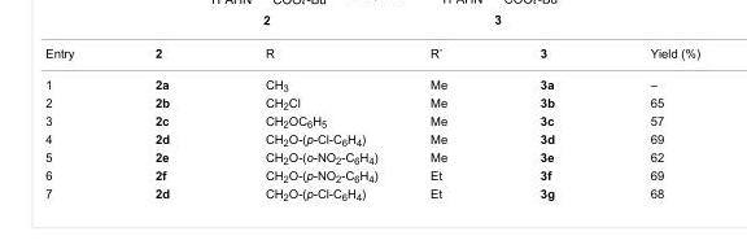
<table><tbody><tr><td>Entry</td><td>2</td><td>R</td><td>R’</td><td>3</td><td>Yield (%)</td></tr><tr><td>1</td><td>2a</td><td>CH<sub>3</sub></td><td>Me</td><td>3a</td><td>–</td></tr><tr><td>2</td><td>2b</td><td>CH<sub>2</sub>Cl</td><td>Me</td><td>3b</td><td>65</td></tr><tr><td>3</td><td>2c</td><td>CH<sub>2</sub>OC<sub>6</sub>H<sub>5</sub></td><td>Me</td><td>3c</td><td>57</td></tr><tr><td>4</td><td>2d</td><td>CH<sub>2</sub>O-(p-Cl-C<sub>6</sub>H<sub>4</sub>)</td><td>Me</td><td>3d</td><td>69</td></tr><tr><td>5</td><td>2e</td><td>CH<sub>2</sub>O-(o-NO<sub>2</sub>-C<sub>6</sub>H<sub>4</sub>)</td><td>Me</td><td>3e</td><td>62</td></tr><tr><td>6</td><td>2f</td><td>CH<sub>2</sub>O-(p-NO<sub>2</sub>-C<sub>6</sub>H<sub>4</sub>)</td><td>Et</td><td>3f</td><td>69</td></tr><tr><td>7</td><td>2d</td><td>CH<sub>2</sub>O-(p-Cl-C<sub>6</sub>H<sub>4</sub>)</td><td>Et</td><td>3g</td><td>68</td></tr></tbody></table>